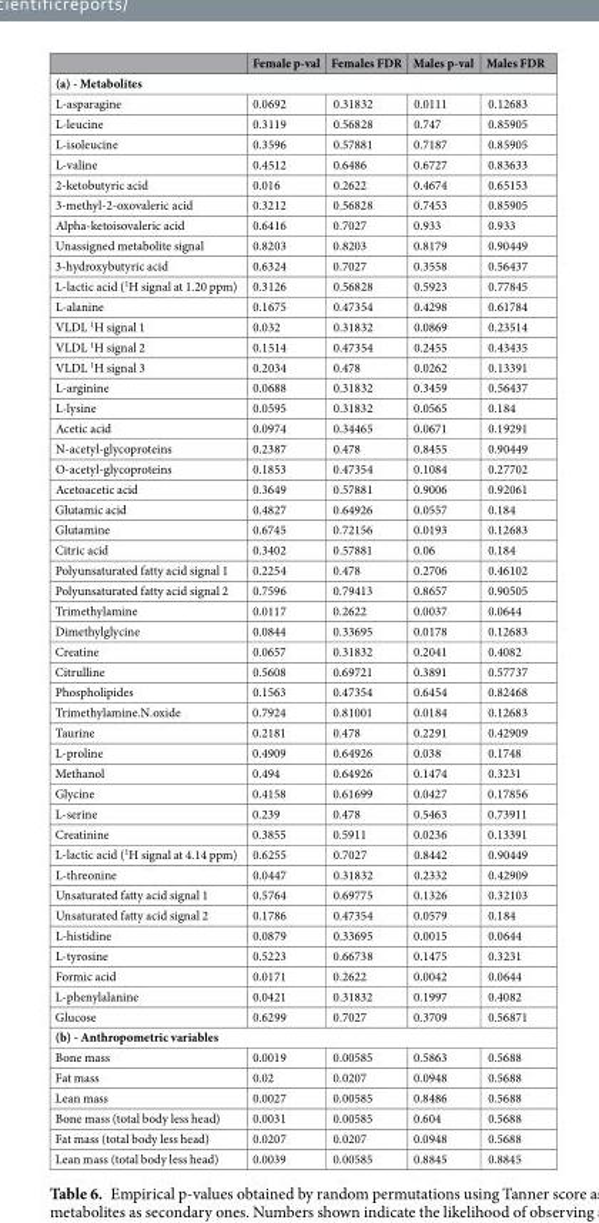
<table><thead><tr><td></td><td>Female p-val</td><td>Females FDR</td><td>Males p-val</td><td>Males FDR</td></tr></thead><tbody><tr><td colspan="5">(a) - Metabolites</td></tr><tr><td>L-asparagine</td><td>0.0692</td><td>0.31832</td><td>0.0111</td><td>0.12683</td></tr><tr><td>L-leucine</td><td>0.3119</td><td>0.56828</td><td>0.747</td><td>0.85905</td></tr><tr><td>L-isoleucine</td><td>0.3596</td><td>0.57881</td><td>0.7187</td><td>0.85905</td></tr><tr><td>L-valine</td><td>0.4512</td><td>0.6486</td><td>0.6727</td><td>0.83633</td></tr><tr><td>2-ketobutyric acid</td><td>0.016</td><td>0.2622</td><td>0.4674</td><td>0.65153</td></tr><tr><td>3-methyl-2-oxovaleric acid</td><td>0.3212</td><td>0.56828</td><td>0.7453</td><td>0.85905</td></tr><tr><td>Alpha-ketoisovaleric acid</td><td>0.6416</td><td>0.7027</td><td>0.933</td><td>0.933</td></tr><tr><td>Unassigned metabolite signal</td><td>0.8203</td><td>0.8203</td><td>0.8179</td><td>0.90449</td></tr><tr><td>3-hydroxybutyric acid</td><td>0.6324</td><td>0.7027</td><td>0.3558</td><td>0.56437</td></tr><tr><td>L-lactic acid (<sup>1</sup>H signal at 1.20 ppm)</td><td>0.3126</td><td>0.56828</td><td>0.5923</td><td>0.77845</td></tr><tr><td>L-alanine</td><td>0.1675</td><td>0.47354</td><td>0.4298</td><td>0.61784</td></tr><tr><td>VLDL <sup>1</sup>H signal 1</td><td>0.032</td><td>0.31832</td><td>0.0869</td><td>0.23514</td></tr><tr><td>VLDL <sup>1</sup>H signal 2</td><td>0.1514</td><td>0.47354</td><td>0.2455</td><td>0.43435</td></tr><tr><td>VLDL <sup>1</sup>H signal 3</td><td>0.2034</td><td>0.478</td><td>0.0262</td><td>0.13391</td></tr><tr><td>L-arginine</td><td>0.0688</td><td>0.31832</td><td>0.3459</td><td>0.56437</td></tr><tr><td>L-lysine</td><td>0.0595</td><td>0.31832</td><td>0.0565</td><td>0.184</td></tr><tr><td>Acetic acid</td><td>0.0974</td><td>0.34465</td><td>0.0671</td><td>0.19291</td></tr><tr><td>N-acetyl-glycoproteins</td><td>0.2387</td><td>0.478</td><td>0.8455</td><td>0.90449</td></tr><tr><td>O-acetyl-glycoproteins</td><td>0.1853</td><td>0.47354</td><td>0.1084</td><td>0.27702</td></tr><tr><td>Acetoacetic acid</td><td>0.3649</td><td>0.57881</td><td>0.9006</td><td>0.92061</td></tr><tr><td>Glutamic acid</td><td>0.4827</td><td>0.64926</td><td>0.0557</td><td>0.184</td></tr><tr><td>Glutamine</td><td>0.6745</td><td>0.72156</td><td>0.0193</td><td>0.12683</td></tr><tr><td>Citric acid</td><td>0.3402</td><td>0.57881</td><td>0.06</td><td>0.184</td></tr><tr><td>Polyunsaturated fatty acid signal 1</td><td>0.2254</td><td>0.478</td><td>0.2706</td><td>0.46102</td></tr><tr><td>Polyunsaturated fatty acid signal 2</td><td>0.7596</td><td>0.79413</td><td>0.8657</td><td>0.90505</td></tr><tr><td>Trimethylamine</td><td>0.0117</td><td>0.2622</td><td>0.0037</td><td>0.0644</td></tr><tr><td>Dimethylglycine</td><td>0.0844</td><td>0.33695</td><td>0.0178</td><td>0.12683</td></tr><tr><td>Creatine</td><td>0.0657</td><td>0.31832</td><td>0.2041</td><td>0.4082</td></tr><tr><td>Citrulline</td><td>0.5608</td><td>0.69721</td><td>0.3891</td><td>0.57737</td></tr><tr><td>Phospholipides</td><td>0.1563</td><td>0.47354</td><td>0.6454</td><td>0.82468</td></tr><tr><td>Trimethylamine.N.oxide</td><td>0.7924</td><td>0.81001</td><td>0.0184</td><td>0.12683</td></tr><tr><td>Taurine</td><td>0.2181</td><td>0.478</td><td>0.2291</td><td>0.42909</td></tr><tr><td>L-proline</td><td>0.4909</td><td>0.64926</td><td>0.038</td><td>0.1748</td></tr><tr><td>Methanol</td><td>0.494</td><td>0.64926</td><td>0.1474</td><td>0.3231</td></tr><tr><td>Glycine</td><td>0.4158</td><td>0.61699</td><td>0.0427</td><td>0.17856</td></tr><tr><td>L-serine</td><td>0.239</td><td>0.478</td><td>0.5463</td><td>0.73911</td></tr><tr><td>Creatinine</td><td>0.3855</td><td>0.5911</td><td>0.0236</td><td>0.13391</td></tr><tr><td>L-lactic acid (<sup>1</sup>H signal at 4.14 ppm)</td><td>0.6255</td><td>0.7027</td><td>0.8442</td><td>0.90449</td></tr><tr><td>L-threonine</td><td>0.0447</td><td>0.31832</td><td>0.2332</td><td>0.42909</td></tr><tr><td>Unsaturated fatty acid signal 1</td><td>0.5764</td><td>0.69775</td><td>0.1326</td><td>0.32103</td></tr><tr><td>Unsaturated fatty acid signal 2</td><td>0.1786</td><td>0.47354</td><td>0.0579</td><td>0.184</td></tr><tr><td>L-histidine</td><td>0.0879</td><td>0.33695</td><td>0.0015</td><td>0.0644</td></tr><tr><td>L-tyrosine</td><td>0.5223</td><td>0.66738</td><td>0.1475</td><td>0.3231</td></tr><tr><td>Formic acid</td><td>0.0171</td><td>0.2622</td><td>0.0042</td><td>0.0644</td></tr><tr><td>L-phenylalanine</td><td>0.0421</td><td>0.31832</td><td>0.1997</td><td>0.4082</td></tr><tr><td>Glucose</td><td>0.6299</td><td>0.7027</td><td>0.3709</td><td>0.56871</td></tr><tr><td colspan="5">(b) - Anthropometric variables</td></tr><tr><td>Bone mass</td><td>0.0019</td><td>0.00585</td><td>0.5863</td><td>0.5688</td></tr><tr><td>Fat mass</td><td>0.02</td><td>0.0207</td><td>0.0948</td><td>0.5688</td></tr><tr><td>Lean mass</td><td>0.0027</td><td>0.00585</td><td>0.8486</td><td>0.5688</td></tr><tr><td>Bone mass (total body less head)</td><td>0.0031</td><td>0.00585</td><td>0.604</td><td>0.5688</td></tr><tr><td>Fat mass (total body less head)</td><td>0.0207</td><td>0.0207</td><td>0.0948</td><td>0.5688</td></tr><tr><td>Lean mass (total body less head)</td><td>0.0039</td><td>0.00585</td><td>0.8845</td><td>0.8845</td></tr></tbody></table>